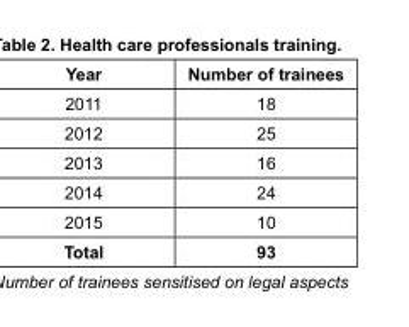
<table><thead><tr><td>Year</td><td>Number of trainees</td></tr></thead><tbody><tr><td>2011</td><td>18</td></tr><tr><td>2012</td><td>25</td></tr><tr><td>2013</td><td>16</td></tr><tr><td>2014</td><td>24</td></tr><tr><td>2015</td><td>10</td></tr><tr><td>Total</td><td>93</td></tr></tbody></table>